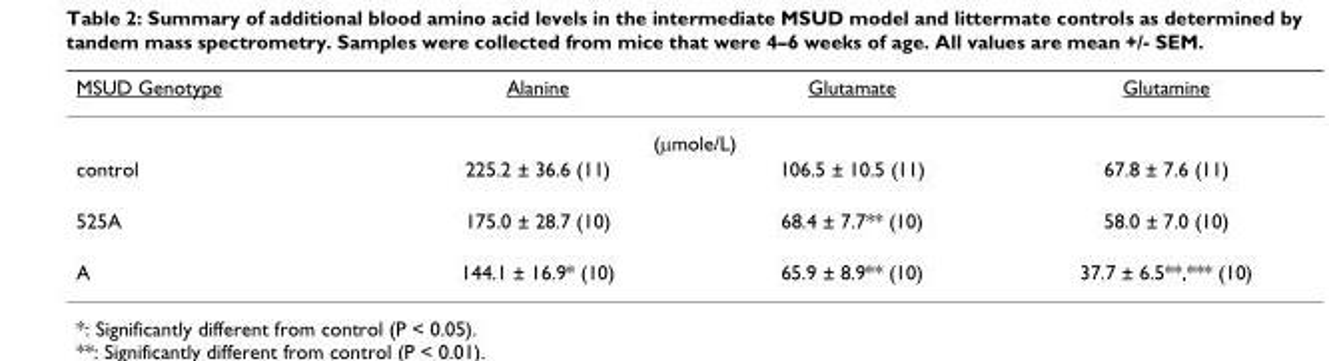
<table><thead><tr><td>MSUD Genotype</td><td>Alanine</td><td>Glutamate</td><td>Glutamine</td></tr></thead><tbody><tr><td colspan="4">(µmole/L)</td></tr><tr><td>control</td><td>225.2 ± 36.6 (11)</td><td>106.5 ± 10.5 (11)</td><td>67.8 ± 7.6 (11)</td></tr><tr><td>525A</td><td>175.0 ± 28.7 (10)</td><td>68.4 ± 7.7** (10)</td><td>58.0 ± 7.0 (10)</td></tr><tr><td>A</td><td>144.1 ± 16.9* (10)</td><td>65.9 ± 8.9** (10)</td><td>37.7 ± 6.5**,*** (10)</td></tr></tbody></table>